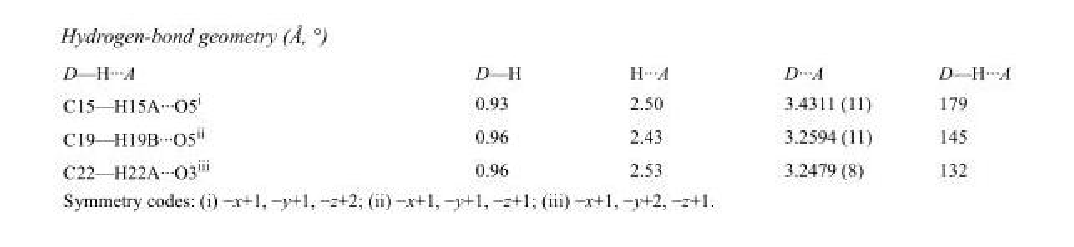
<table><tbody><tr><td>D—H···A</td><td>D—H</td><td>H···A</td><td>D···A</td><td>D—H···A</td></tr><tr><td>C15—H15A···O5<sup>i</sup></td><td>0.93</td><td>2.50</td><td>3.4311 (11)</td><td>179</td></tr><tr><td>C19—H19B···O5<sup>ii</sup></td><td>0.96</td><td>2.43</td><td>3.2594 (11)</td><td>145</td></tr><tr><td>C22—H22A···O3<sup>iii</sup></td><td>0.96</td><td>2.53</td><td>3.2479 (8)</td><td>132</td></tr></tbody></table>